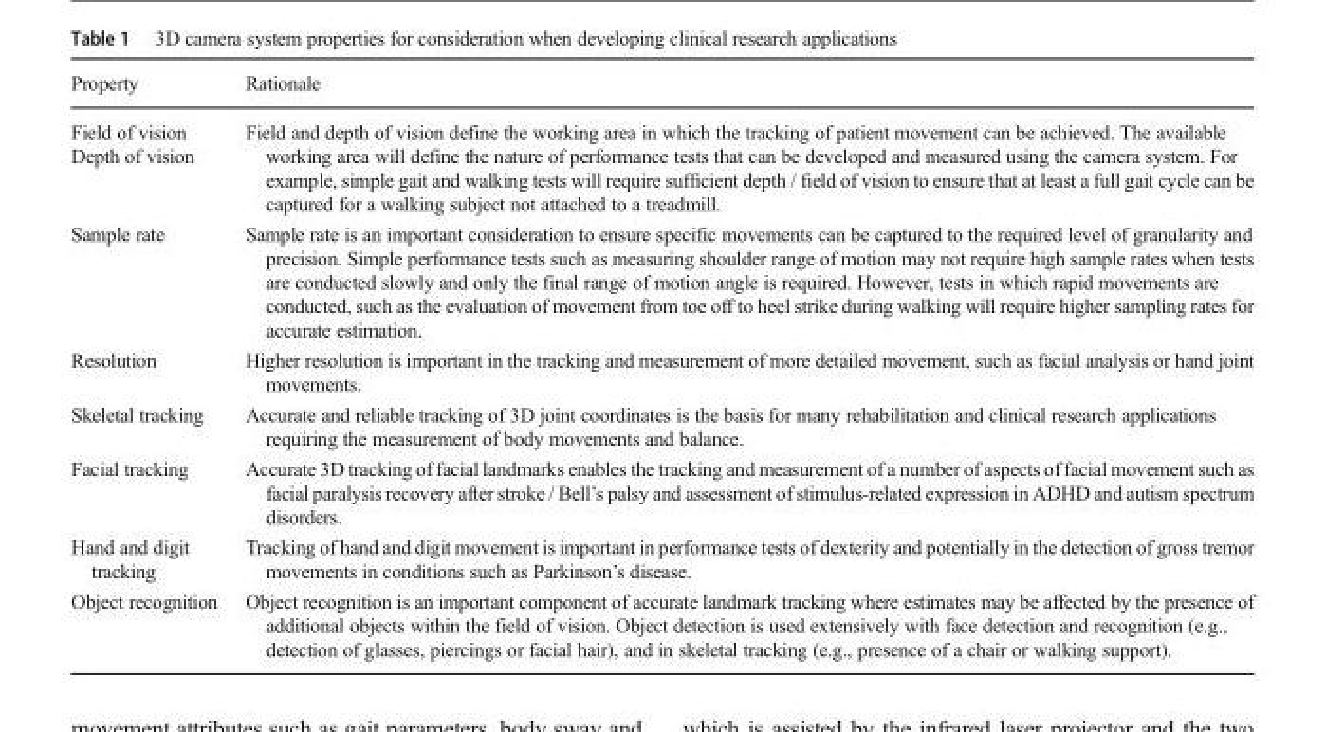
<table><thead><tr><td>Property</td><td>Rationale</td></tr></thead><tbody><tr><td>Field of vision</td><td rowspan="2">Field and depth of vision define the working area in which the tracking of patient movement can be achieved. The available working area will define the nature of performance tests that can be developed and measured using the camera system. For example, simple gait and walking tests will require sufficient depth / field of vision to ensure that at least a full gait cycle can be captured for a walking subject not attached to a treadmill.</td></tr><tr><td>Depth of vision</td></tr><tr><td>Sample rate</td><td>Sample rate is an important consideration to ensure specific movements can be captured to the required level of granularity and precision. Simple performance tests such as measuring shoulder range of motion may not require high sample rates when tests are conducted slowly and only the final range of motion angle is required. However, tests in which rapid movements are conducted, such as the evaluation of movement from toe off to heel strike during walking will require higher sampling rates for accurate estimation.</td></tr><tr><td>Resolution</td><td>Higher resolution is important in the tracking and measurement of more detailed movement, such as facial analysis or hand joint movements.</td></tr><tr><td>Skeletal tracking</td><td>Accurate and reliable tracking of 3D joint coordinates is the basis for many rehabilitation and clinical research applications requiring the measurement of body movements and balance.</td></tr><tr><td>Facial tracking</td><td>Accurate 3D tracking of facial landmarks enables the tracking and measurement of a number of aspects of facial movement such as facial paralysis recovery after stroke / Bell’s palsy and assessment of stimulus-related expression in ADHD and autism spectrum disorders.</td></tr><tr><td>Hand and digit tracking</td><td>Tracking of hand and digit movement is important in performance tests of dexterity and potentially in the detection of gross tremor movements in conditions such as Parkinson’s disease.</td></tr><tr><td>Object recognition</td><td>Object recognition is an important component of accurate landmark tracking where estimates may be affected by the presence of additional objects within the field of vision. Object detection is used extensively with face detection and recognition (e.g., detection of glasses, piercings or facial hair), and in skeletal tracking (e.g., presence of a chair or walking support).</td></tr></tbody></table>